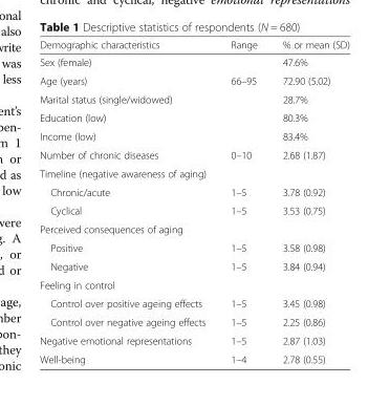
<table><thead><tr><td>Demographic characteristics</td><td>Range</td><td>% or mean (SD)</td></tr></thead><tbody><tr><td>Sex (female)</td><td></td><td>47.6%</td></tr><tr><td>Age (years)</td><td>66–95</td><td>72.90 (5.02)</td></tr><tr><td>Marital status (single/widowed)</td><td></td><td>28.7%</td></tr><tr><td>Education (low)</td><td></td><td>80.3%</td></tr><tr><td>Income (low)</td><td></td><td>83.4%</td></tr><tr><td>Number of chronic diseases</td><td>0–10</td><td>2.68 (1.87)</td></tr><tr><td colspan="3">Timeline (negative awareness of aging)</td></tr><tr><td>Chronic/acute</td><td>1–5</td><td>3.78 (0.92)</td></tr><tr><td>Cyclical</td><td>1–5</td><td>3.53 (0.75)</td></tr><tr><td colspan="3">Perceived consequences of aging</td></tr><tr><td>Positive</td><td>1–5</td><td>3.58 (0.98)</td></tr><tr><td>Negative</td><td>1–5</td><td>3.84 (0.94)</td></tr><tr><td colspan="3">Feeling in control</td></tr><tr><td>Control over positive ageing effects</td><td>1–5</td><td>3.45 (0.98)</td></tr><tr><td>Control over negative ageing effects</td><td>1–5</td><td>2.25 (0.86)</td></tr><tr><td>Negative emotional representations</td><td>1–5</td><td>2.87 (1.03)</td></tr><tr><td>Well-being</td><td>1–4</td><td>2.78 (0.55)</td></tr></tbody></table>